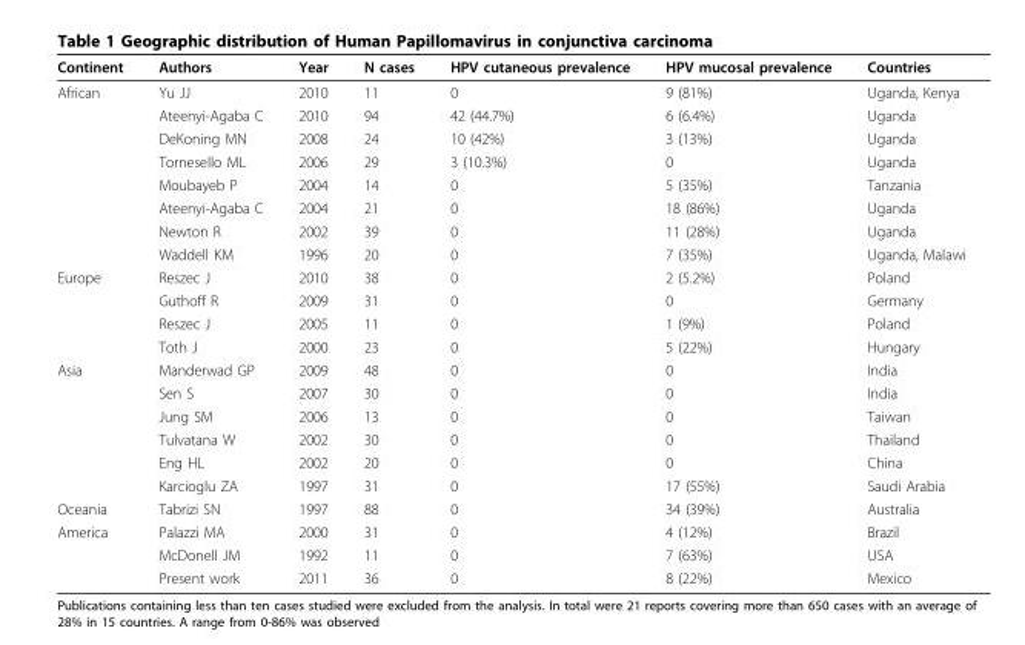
<table><thead><tr><td>Continent</td><td>Authors</td><td>Year</td><td>N cases</td><td>HPV cutaneous prevalence</td><td>HPV mucosal prevalence</td><td>Countries</td></tr></thead><tbody><tr><td rowspan="8">African</td><td>Yu JJ</td><td>2010</td><td>11</td><td>0</td><td>9 (81%)</td><td>Uganda, Kenya</td></tr><tr><td>Ateenyi-Agaba C</td><td>2010</td><td>94</td><td>42 (44.7%)</td><td>6 (6.4%)</td><td>Uganda</td></tr><tr><td>DeKoning MN</td><td>2008</td><td>24</td><td>10 (42%)</td><td>3 (13%)</td><td>Uganda</td></tr><tr><td>Tornesello ML</td><td>2006</td><td>29</td><td>3 (10.3%)</td><td>0</td><td>Uganda</td></tr><tr><td>Moubayeb P</td><td>2004</td><td>14</td><td>0</td><td>5 (35%)</td><td>Tanzania</td></tr><tr><td>Ateenyi-Agaba C</td><td>2004</td><td>21</td><td>0</td><td>18 (86%)</td><td>Uganda</td></tr><tr><td>Newton R</td><td>2002</td><td>39</td><td>0</td><td>11 (28%)</td><td>Uganda</td></tr><tr><td>Waddell KM</td><td>1996</td><td>20</td><td>0</td><td>7 (35%)</td><td>Uganda, Malawi</td></tr><tr><td rowspan="4">Europe</td><td>Reszec J</td><td>2010</td><td>38</td><td>0</td><td>2 (5.2%)</td><td>Poland</td></tr><tr><td>Guthoff R</td><td>2009</td><td>31</td><td>0</td><td>0</td><td>Germany</td></tr><tr><td>Reszec J</td><td>2005</td><td>11</td><td>0</td><td>1 (9%)</td><td>Poland</td></tr><tr><td>Toth J</td><td>2000</td><td>23</td><td>0</td><td>5 (22%)</td><td>Hungary</td></tr><tr><td rowspan="6">Asia</td><td>Manderwad GP</td><td>2009</td><td>48</td><td>0</td><td>0</td><td>India</td></tr><tr><td>Sen S</td><td>2007</td><td>30</td><td>0</td><td>0</td><td>India</td></tr><tr><td>Jung SM</td><td>2006</td><td>13</td><td>0</td><td>0</td><td>Taiwan</td></tr><tr><td>Tulvatana W</td><td>2002</td><td>30</td><td>0</td><td>0</td><td>Thailand</td></tr><tr><td>Eng HL</td><td>2002</td><td>20</td><td>0</td><td>0</td><td>China</td></tr><tr><td>Karcioglu ZA</td><td>1997</td><td>31</td><td>0</td><td>17 (55%)</td><td>Saudi Arabia</td></tr><tr><td>Oceania</td><td>Tabrizi SN</td><td>1997</td><td>88</td><td>0</td><td>34 (39%)</td><td>Australia</td></tr><tr><td rowspan="3">America</td><td>Palazzi MA</td><td>2000</td><td>31</td><td>0</td><td>4 (12%)</td><td>Brazil</td></tr><tr><td>McDonell JM</td><td>1992</td><td>11</td><td>0</td><td>7 (63%)</td><td>USA</td></tr><tr><td>Present work</td><td>2011</td><td>36</td><td>0</td><td>8 (22%)</td><td>Mexico</td></tr></tbody></table>